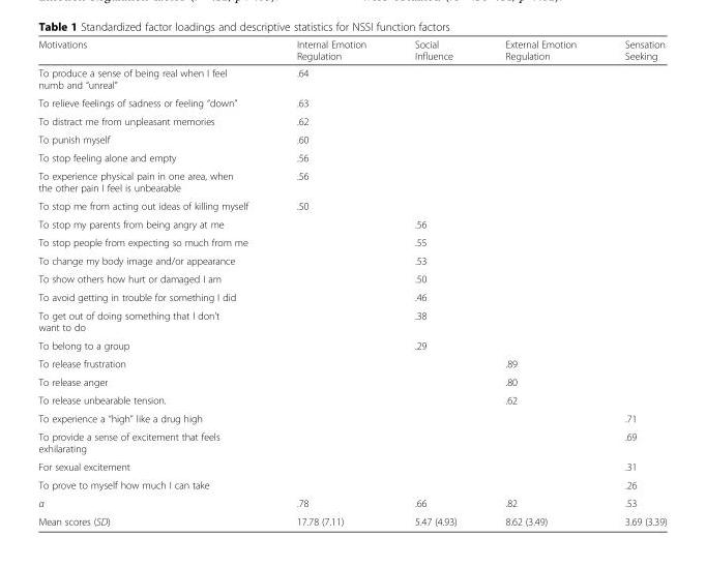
<table><thead><tr><td>Motivations</td><td>Internal Emotion Regulation</td><td>Social Influence</td><td>External Emotion Regulation</td><td>Sensation Seeking</td></tr></thead><tbody><tr><td>To produce a sense of being real when I feel numb and “unreal”</td><td>.64</td><td></td><td></td><td></td></tr><tr><td>To relieve feelings of sadness or feeling “down”</td><td>.63</td><td></td><td></td><td></td></tr><tr><td>To distract me from unpleasant memories</td><td>.62</td><td></td><td></td><td></td></tr><tr><td>To punish myself</td><td>.60</td><td></td><td></td><td></td></tr><tr><td>To stop feeling alone and empty</td><td>.56</td><td></td><td></td><td></td></tr><tr><td>To experience physical pain in one area, when the other pain I feel is unbearable</td><td>.56</td><td></td><td></td><td></td></tr><tr><td>To stop me from acting out ideas of killing myself</td><td>.50</td><td></td><td></td><td></td></tr><tr><td>To stop my parents from being angry at me</td><td></td><td>.56</td><td></td><td></td></tr><tr><td>To stop people from expecting so much from me</td><td></td><td>.55</td><td></td><td></td></tr><tr><td>To change my body image and/or appearance</td><td></td><td>.53</td><td></td><td></td></tr><tr><td>To show others how hurt or damaged I am</td><td></td><td>.50</td><td></td><td></td></tr><tr><td>To avoid getting in trouble for something I did</td><td></td><td>.46</td><td></td><td></td></tr><tr><td>To get out of doing something that I don’t want to do</td><td></td><td>.38</td><td></td><td></td></tr><tr><td>To belong to a group</td><td></td><td>.29</td><td></td><td></td></tr><tr><td>To release frustration</td><td></td><td></td><td>.89</td><td></td></tr><tr><td>To release anger</td><td></td><td></td><td>.80</td><td></td></tr><tr><td>To release unbearable tension.</td><td></td><td></td><td>.62</td><td></td></tr><tr><td>To experience a “high” like a drug high</td><td></td><td></td><td></td><td>.71</td></tr><tr><td>To provide a sense of excitement that feels exhilarating</td><td></td><td></td><td></td><td>.69</td></tr><tr><td>For sexual excitement</td><td></td><td></td><td></td><td>.31</td></tr><tr><td>To prove to myself how much I can take</td><td></td><td></td><td></td><td>.26</td></tr><tr><td>α</td><td>.78</td><td>.66</td><td>.82</td><td>.53</td></tr><tr><td>Mean scores (SD)</td><td>17.78 (7.11)</td><td>5.47 (4.93)</td><td>8.62 (3.49)</td><td>3.69 (3.39)</td></tr></tbody></table>